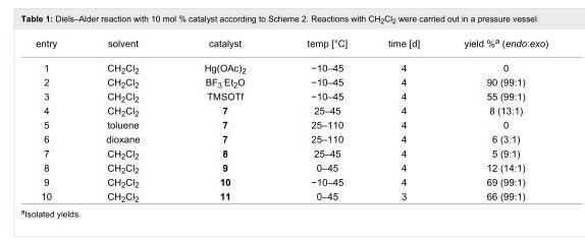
<table><tbody><tr><td>entry</td><td>solvent</td><td>catalyst</td><td>temp [°C]</td><td>time [d]</td><td>yield %<sup>a</sup> (endo:exo)</td></tr><tr><td>1</td><td>CH<sub>2</sub>Cl<sub>2</sub></td><td>Hg(OAc)<sub>2</sub></td><td>−10–45</td><td>4</td><td>0</td></tr><tr><td>2</td><td>CH<sub>2</sub>Cl<sub>2</sub></td><td>BF<sub>3</sub><sup>.</sup>Et<sub>2</sub>O</td><td>−10–45</td><td>4</td><td>90 (99:1)</td></tr><tr><td>3</td><td>CH<sub>2</sub>Cl<sub>2</sub></td><td>TMSOTf</td><td>−10–45</td><td>4</td><td>55 (99:1)</td></tr><tr><td>4</td><td>CH<sub>2</sub>Cl<sub>2</sub></td><td>7</td><td>25–45</td><td>4</td><td>8 (13:1)</td></tr><tr><td>5</td><td>toluene</td><td>7</td><td>25–110</td><td>4</td><td>0</td></tr><tr><td>6</td><td>dioxane</td><td>7</td><td>25–110</td><td>4</td><td>6 (3:1)</td></tr><tr><td>7</td><td>CH<sub>2</sub>Cl<sub>2</sub></td><td>8</td><td>25–45</td><td>4</td><td>5 (9:1)</td></tr><tr><td>8</td><td>CH<sub>2</sub>Cl<sub>2</sub></td><td>9</td><td>0–45</td><td>4</td><td>12 (14:1)</td></tr><tr><td>9</td><td>CH<sub>2</sub>Cl<sub>2</sub></td><td>10</td><td>−10–45</td><td>4</td><td>69 (99:1)</td></tr><tr><td>10</td><td>CH<sub>2</sub>Cl<sub>2</sub></td><td>11</td><td>0–45</td><td>3</td><td>66 (99:1)</td></tr></tbody></table>